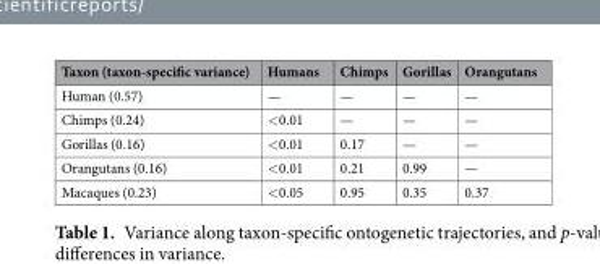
<table><thead><tr><td>Taxon (taxon-specific variance)</td><td>Humans</td><td>Chimps</td><td>Gorillas</td><td>Orangutans</td></tr></thead><tbody><tr><td>Human (0.57)</td><td>—</td><td>—</td><td>—</td><td>—</td></tr><tr><td>Chimps (0.24)</td><td>&lt;0.01</td><td>—</td><td>—</td><td>—</td></tr><tr><td>Gorillas (0.16)</td><td>&lt;0.01</td><td>0.17</td><td>—</td><td>—</td></tr><tr><td>Orangutans (0.16)</td><td>&lt;0.01</td><td>0.21</td><td>0.99</td><td>—</td></tr><tr><td>Macaques (0.23)</td><td>&lt;0.05</td><td>0.95</td><td>0.35</td><td>0.37</td></tr></tbody></table>